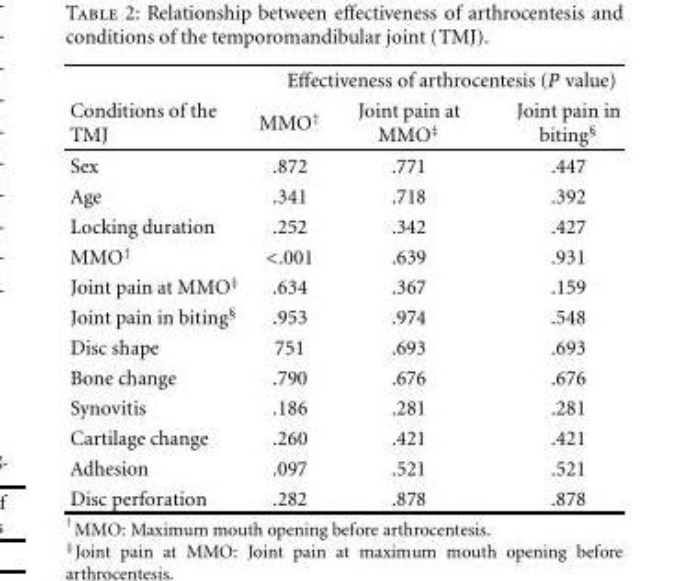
<table><thead><tr><td rowspan="2">Conditions of the TMJ</td><td colspan="3">Effectiveness of arthrocentesis (P value)</td></tr><tr><td>MMO<sup>†</sup></td><td>Joint pain at MMO<sup>‡</sup></td><td>Joint pain in biting<sup>§</sup></td></tr></thead><tbody><tr><td>Sex</td><td>.872</td><td>.771</td><td>.447</td></tr><tr><td>Age</td><td>.341</td><td>.718</td><td>.392</td></tr><tr><td>Locking duration</td><td>.252</td><td>.342</td><td>.427</td></tr><tr><td>MMO<sup>†</sup></td><td>&lt;.001</td><td>.639</td><td>.931</td></tr><tr><td>Joint pain at MMO<sup>‡</sup></td><td>.634</td><td>.367</td><td>.159</td></tr><tr><td>Joint pain in biting<sup>§</sup></td><td>.953</td><td>.974</td><td>.548</td></tr><tr><td>Disc shape</td><td>751</td><td>.693</td><td>.693</td></tr><tr><td>Bone change</td><td>.790</td><td>.676</td><td>.676</td></tr><tr><td>Synovitis</td><td>.186</td><td>.281</td><td>.281</td></tr><tr><td>Cartilage change</td><td>.260</td><td>.421</td><td>.421</td></tr><tr><td>Adhesion</td><td>.097</td><td>.521</td><td>.521</td></tr><tr><td>Disc perforation</td><td>.282</td><td>.878</td><td>.878</td></tr></tbody></table>